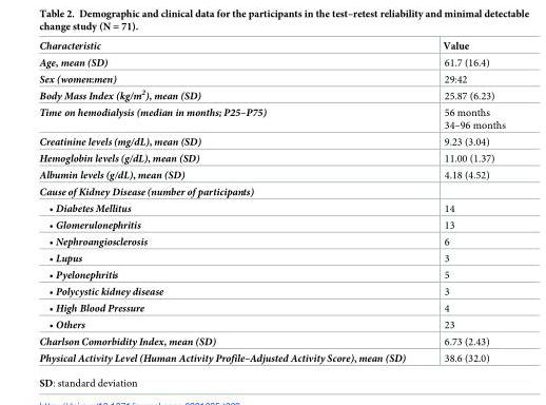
<table><thead><tr><td>Characteristic</td><td>Value</td></tr></thead><tbody><tr><td>Age, mean (SD)</td><td>61.7 (16.4)</td></tr><tr><td>Sex (women:men)</td><td>29:42</td></tr><tr><td>Body Mass Index (kg/m<sup>2</sup>), mean (SD)</td><td>25.87 (6.23)</td></tr><tr><td>Time on hemodialysis (median in months; P25–P75)</td><td>56 months 34–96 months</td></tr><tr><td>Creatinine levels (mg/dL), mean (SD)</td><td>9.23 (3.04)</td></tr><tr><td>Hemoglobin levels (g/dL), mean (SD)</td><td>11.00 (1.37)</td></tr><tr><td>Albumin levels (g/dL), mean (SD)</td><td>4.18 (4.52)</td></tr><tr><td colspan="2">Cause of Kidney Disease(number of participants)</td></tr><tr><td>• Diabetes Mellitus</td><td>14</td></tr><tr><td>• Glomerulonephritis</td><td>13</td></tr><tr><td>• Nephroangiosclerosis</td><td>6</td></tr><tr><td>• Lupus</td><td>3</td></tr><tr><td>• Pyelonephritis</td><td>5</td></tr><tr><td>• Polycystic kidney disease</td><td>3</td></tr><tr><td>• High Blood Pressure</td><td>4</td></tr><tr><td>• Others</td><td>23</td></tr><tr><td>Charlson Comorbidity Index, mean (SD)</td><td>6.73 (2.43)</td></tr><tr><td>Physical Activity Level (Human Activity Profile–Adjusted Activity Score), mean (SD)</td><td>38.6 (32.0)</td></tr></tbody></table>